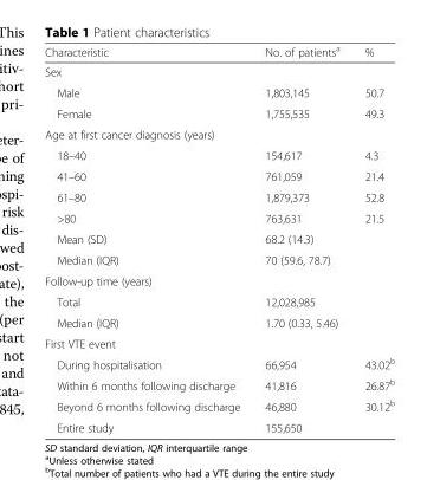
<table><thead><tr><td>Characteristic</td><td>No. of patients<sup>a</sup></td><td>%</td></tr></thead><tbody><tr><td colspan="3">Sex</td></tr><tr><td>Male</td><td>1,803,145</td><td>50.7</td></tr><tr><td>Female</td><td>1,755,535</td><td>49.3</td></tr><tr><td colspan="3">Age at first cancer diagnosis (years)</td></tr><tr><td>18–40</td><td>154,617</td><td>4.3</td></tr><tr><td>41–60</td><td>761,059</td><td>21.4</td></tr><tr><td>61–80</td><td>1,879,373</td><td>52.8</td></tr><tr><td>&gt;80</td><td>763,631</td><td>21.5</td></tr><tr><td>Mean (SD)</td><td>68.2 (14.3)</td><td></td></tr><tr><td>Median (IQR)</td><td>70 (59.6, 78.7)</td><td></td></tr><tr><td colspan="3">Follow-up time (years)</td></tr><tr><td>Total</td><td>12,028,985</td><td></td></tr><tr><td>Median (IQR)</td><td>1.70 (0.33, 5.46)</td><td></td></tr><tr><td colspan="3">First VTE event</td></tr><tr><td>During hospitalisation</td><td>66,954</td><td>43.02<sup>b</sup></td></tr><tr><td>Within 6 months following discharge</td><td>41,816</td><td>26.87<sup>b</sup></td></tr><tr><td>Beyond 6 months following discharge</td><td>46,880</td><td>30.12<sup>b</sup></td></tr><tr><td>Entire study</td><td>155,650</td><td></td></tr></tbody></table>